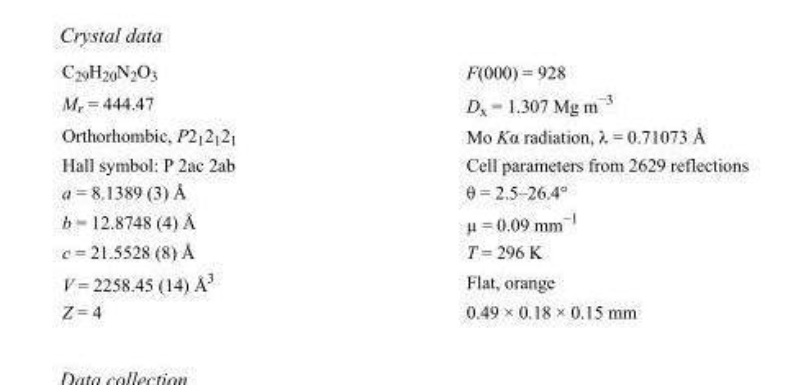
<table><tbody><tr><td>C<sub>29</sub>H<sub>20</sub>N<sub>2</sub>O<sub>3</sub></td><td>F(000) = 928</td></tr><tr><td>M<sub>r</sub> = 444.47</td><td>D<sub>x</sub> = 1.307 Mg m<sup>−3</sup></td></tr><tr><td>Orthorhombic, P2<sub>1</sub>2<sub>1</sub>2<sub>1</sub></td><td>Mo Kα radiation, λ = 0.71073 Å</td></tr><tr><td>Hall symbol: P 2ac 2ab</td><td>Cell parameters from 2629 reflections</td></tr><tr><td>a = 8.1389 (3) Å</td><td>θ = 2.5–26.4°</td></tr><tr><td>b = 12.8748 (4) Å</td><td>µ = 0.09 mm<sup>−1</sup></td></tr><tr><td>c = 21.5528 (8) Å</td><td>T = 296 K</td></tr><tr><td>V = 2258.45 (14) Å<sup>3</sup></td><td>Flat, orange</td></tr><tr><td>Z = 4</td><td>0.49 × 0.18 × 0.15 mm</td></tr></tbody></table>